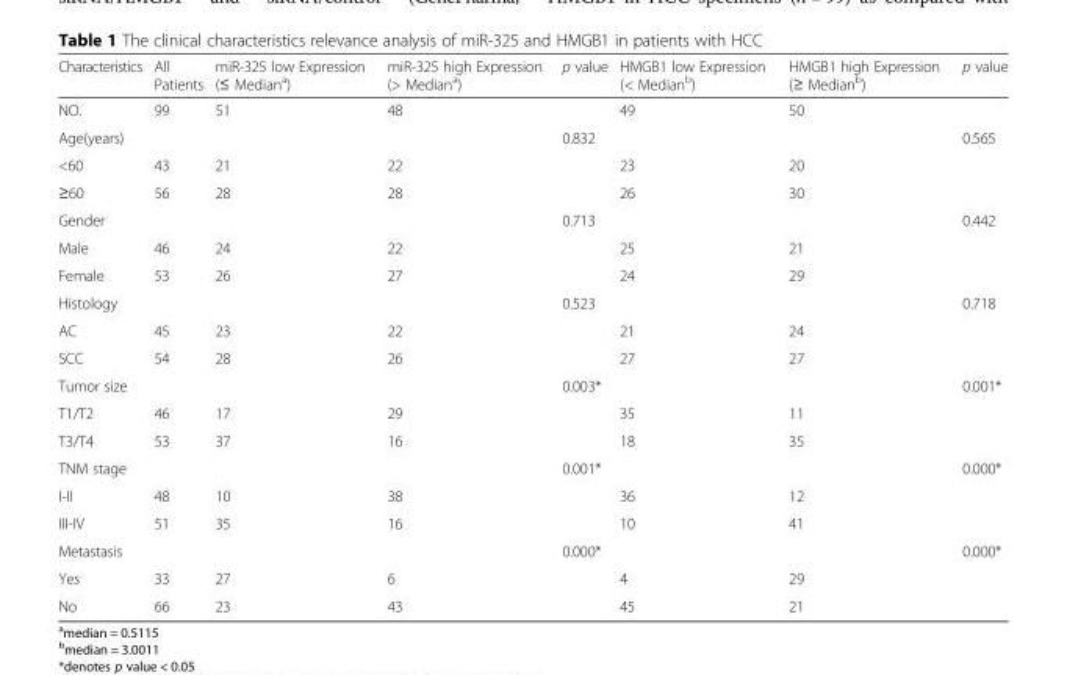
<table><thead><tr><td>Characteristics</td><td>All Patients</td><td>miR-325 low Expression (≤ Mediana)</td><td>miR-325 high Expression (&gt; Mediana)</td><td>p value</td><td>HMGB1 low Expression (&lt; Medianb)</td><td>HMGB1 high Expression (≥ Medianb)</td><td>p value</td></tr></thead><tbody><tr><td>NO.</td><td>99</td><td>51</td><td>48</td><td></td><td>49</td><td>50</td><td></td></tr><tr><td>Age(years)</td><td></td><td></td><td></td><td>0.832</td><td></td><td></td><td>0.565</td></tr><tr><td>&lt;60</td><td>43</td><td>21</td><td>22</td><td></td><td>23</td><td>20</td><td></td></tr><tr><td>≥60</td><td>56</td><td>28</td><td>28</td><td></td><td>26</td><td>30</td><td></td></tr><tr><td>Gender</td><td></td><td></td><td></td><td>0.713</td><td></td><td></td><td>0.442</td></tr><tr><td>Male</td><td>46</td><td>24</td><td>22</td><td></td><td>25</td><td>21</td><td></td></tr><tr><td>Female</td><td>53</td><td>26</td><td>27</td><td></td><td>24</td><td>29</td><td></td></tr><tr><td>Histology</td><td></td><td></td><td></td><td>0.523</td><td></td><td></td><td>0.718</td></tr><tr><td>AC</td><td>45</td><td>23</td><td>22</td><td></td><td>21</td><td>24</td><td></td></tr><tr><td>SCC</td><td>54</td><td>28</td><td>26</td><td></td><td>27</td><td>27</td><td></td></tr><tr><td>Tumor size</td><td></td><td></td><td></td><td>0.003*</td><td></td><td></td><td>0.001*</td></tr><tr><td>T1/T2</td><td>46</td><td>17</td><td>29</td><td></td><td>35</td><td>11</td><td></td></tr><tr><td>T3/T4</td><td>53</td><td>37</td><td>16</td><td></td><td>18</td><td>35</td><td></td></tr><tr><td>TNM stage</td><td></td><td></td><td></td><td>0.001*</td><td></td><td></td><td>0.000*</td></tr><tr><td>I-II</td><td>48</td><td>10</td><td>38</td><td></td><td>36</td><td>12</td><td></td></tr><tr><td>III-IV</td><td>51</td><td>35</td><td>16</td><td></td><td>10</td><td>41</td><td></td></tr><tr><td>Metastasis</td><td></td><td></td><td></td><td>0.000*</td><td></td><td></td><td>0.000*</td></tr><tr><td>Yes</td><td>33</td><td>27</td><td>6</td><td></td><td>4</td><td>29</td><td></td></tr><tr><td>No</td><td>66</td><td>23</td><td>43</td><td></td><td>45</td><td>21</td><td></td></tr></tbody></table>